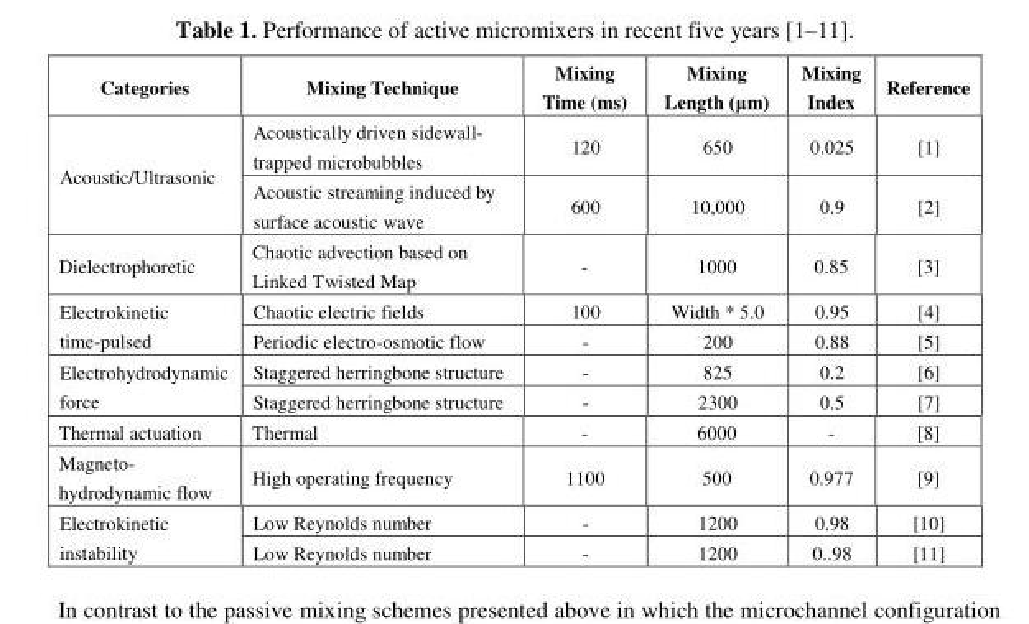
<table><thead><tr><td>Categories</td><td>Mixing Technique</td><td>Mixing Time (ms)</td><td>Mixing Length (μm)</td><td>Mixing Index</td><td>Reference</td></tr></thead><tbody><tr><td rowspan="2">Acoustic/Ultrasonic</td><td>Acoustically driven sidewall- trapped microbubbles</td><td>120</td><td>650</td><td>0.025</td><td>[1]</td></tr><tr><td>Acoustic streaming induced by surface acoustic wave</td><td>600</td><td>10,000</td><td>0.9</td><td>[2]</td></tr><tr><td>Dielectrophoretic</td><td>Chaotic advection based on Linked Twisted Map</td><td>-</td><td>1000</td><td>0.85</td><td>[3]</td></tr><tr><td rowspan="2">Electrokinetic time-pulsed</td><td>Chaotic electric fields</td><td>100</td><td>Width * 5.0</td><td>0.95</td><td>[4]</td></tr><tr><td>Periodic electro-osmotic flow</td><td>-</td><td>200</td><td>0.88</td><td>[5]</td></tr><tr><td rowspan="2">Electrohydrodynamic force</td><td>Staggered herringbone structure</td><td>-</td><td>825</td><td>0.2</td><td>[6]</td></tr><tr><td>Staggered herringbone structure</td><td>-</td><td>2300</td><td>0.5</td><td>[7]</td></tr><tr><td>Thermal actuation</td><td>Thermal</td><td>-</td><td>6000</td><td>-</td><td>[8]</td></tr><tr><td>Magneto- hydrodynamic flow</td><td>High operating frequency</td><td>1100</td><td>500</td><td>0.977</td><td>[9]</td></tr><tr><td rowspan="2">Electrokinetic instability</td><td>Low Reynolds number</td><td>-</td><td>1200</td><td>0.98</td><td>[10]</td></tr><tr><td>Low Reynolds number</td><td>-</td><td>1200</td><td>0..98</td><td>[11]</td></tr></tbody></table>